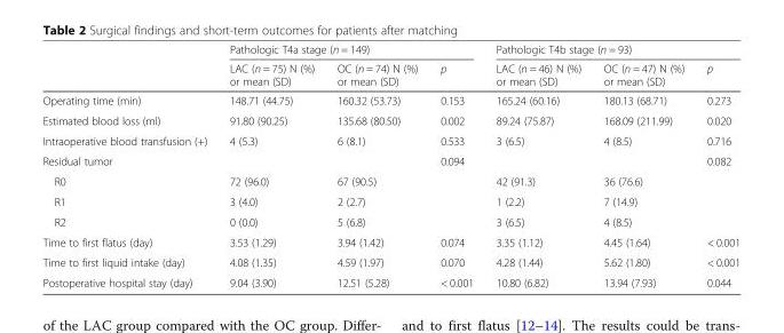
<table><thead><tr><td rowspan="2"></td><td colspan="3">Pathologic T4a stage (n = 149)</td><td colspan="3">Pathologic T4b stage (n = 93)</td></tr><tr><td>LAC (n = 75) N (%) or mean (SD)</td><td>OC (n = 74) N (%) or mean (SD)</td><td>p</td><td>LAC (n = 46) N (%) or mean (SD)</td><td>OC (n = 47) N (%) or mean (SD)</td><td>p</td></tr></thead><tbody><tr><td>Operating time (min)</td><td>148.71 (44.75)</td><td>160.32 (53.73)</td><td>0.153</td><td>165.24 (60.16)</td><td>180.13 (68.71)</td><td>0.273</td></tr><tr><td>Estimated blood loss (ml)</td><td>91.80 (90.25)</td><td>135.68 (80.50)</td><td>0.002</td><td>89.24 (75.87)</td><td>168.09 (211.99)</td><td>0.020</td></tr><tr><td>Intraoperative blood transfusion (+)</td><td>4 (5.3)</td><td>6 (8.1)</td><td>0.533</td><td>3 (6.5)</td><td>4 (8.5)</td><td>0.716</td></tr><tr><td>Residual tumor</td><td></td><td></td><td>0.094</td><td></td><td></td><td>0.082</td></tr><tr><td>R0</td><td>72 (96.0)</td><td>67 (90.5)</td><td></td><td>42 (91.3)</td><td>36 (76.6)</td><td></td></tr><tr><td>R1</td><td>3 (4.0)</td><td>2 (2.7)</td><td></td><td>1 (2.2)</td><td>7 (14.9)</td><td></td></tr><tr><td>R2</td><td>0 (0.0)</td><td>5 (6.8)</td><td></td><td>3 (6.5)</td><td>4 (8.5)</td><td></td></tr><tr><td>Time to first flatus (day)</td><td>3.53 (1.29)</td><td>3.94 (1.42)</td><td>0.074</td><td>3.35 (1.12)</td><td>4.45 (1.64)</td><td>&lt; 0.001</td></tr><tr><td>Time to first liquid intake (day)</td><td>4.08 (1.35)</td><td>4.59 (1.97)</td><td>0.070</td><td>4.28 (1.44)</td><td>5.62 (1.80)</td><td>&lt; 0.001</td></tr><tr><td>Postoperative hospital stay (day)</td><td>9.04 (3.90)</td><td>12.51 (5.28)</td><td>&lt; 0.001</td><td>10.80 (6.82)</td><td>13.94 (7.93)</td><td>0.044</td></tr></tbody></table>